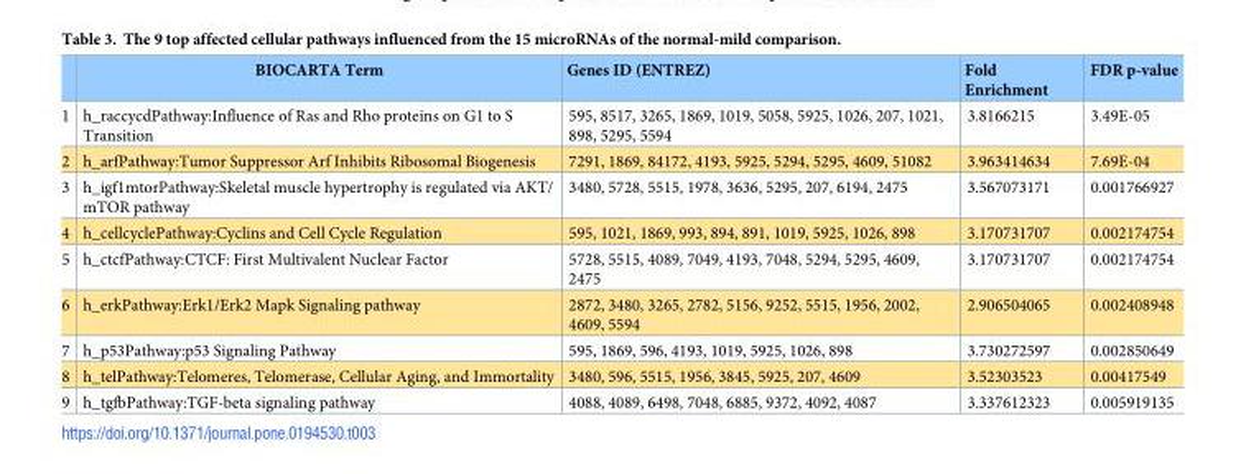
<table><thead><tr><td></td><td>BIOCARTA Term</td><td>Genes ID (ENTREZ)</td><td>Fold Enrichment</td><td>FDR p-value</td></tr></thead><tbody><tr><td>1</td><td>h_raccycdPathway:Influence of Ras and Rho proteins on G1 to S Transition</td><td>595, 8517, 3265, 1869, 1019, 5058, 5925, 1026, 207, 1021, 898, 5295, 5594</td><td>3.8166215</td><td>3.49E-05</td></tr><tr><td>2</td><td>h_arfPathway:Tumor Suppressor Arf Inhibits Ribosomal Biogenesis</td><td>7291, 1869, 84172, 4193, 5925, 5294, 5295, 4609, 51082</td><td>3.963414634</td><td>7.69E-04</td></tr><tr><td>3</td><td>h_igf1mtorPathway:Skeletal muscle hypertrophy is regulated via AKT/ mTOR pathway</td><td>3480, 5728, 5515, 1978, 3636, 5295, 207, 6194, 2475</td><td>3.567073171</td><td>0.001766927</td></tr><tr><td>4</td><td>h_cellcyclePathway:Cyclins and Cell Cycle Regulation</td><td>595, 1021, 1869, 993, 894, 891, 1019, 5925, 1026, 898</td><td>3.170731707</td><td>0.002174754</td></tr><tr><td>5</td><td>h_ctcfPathway:CTCF: First Multivalent Nuclear Factor</td><td>5728, 5515, 4089, 7049, 4193, 7048, 5294, 5295, 4609, 2475</td><td>3.170731707</td><td>0.002174754</td></tr><tr><td>6</td><td>h_erkPathway:Erk1/Erk2 Mapk Signaling pathway</td><td>2872, 3480, 3265, 2782, 5156, 9252, 5515, 1956, 2002, 4609, 5594</td><td>2.906504065</td><td>0.002408948</td></tr><tr><td>7</td><td>h_p53Pathway:p53 Signaling Pathway</td><td>595, 1869, 596, 4193, 1019, 5925, 1026, 898</td><td>3.730272597</td><td>0.002850649</td></tr><tr><td>8</td><td>h_telPathway:Telomeres, Telomerase, Cellular Aging, and Immortality</td><td>3480, 596, 5515, 1956, 3845, 5925, 207, 4609</td><td>3.52303523</td><td>0.00417549</td></tr><tr><td>9</td><td>h_tgfbPathway:TGF-beta signaling pathway</td><td>4088, 4089, 6498, 7048, 6885, 9372, 4092, 4087</td><td>3.337612323</td><td>0.005919135</td></tr></tbody></table>